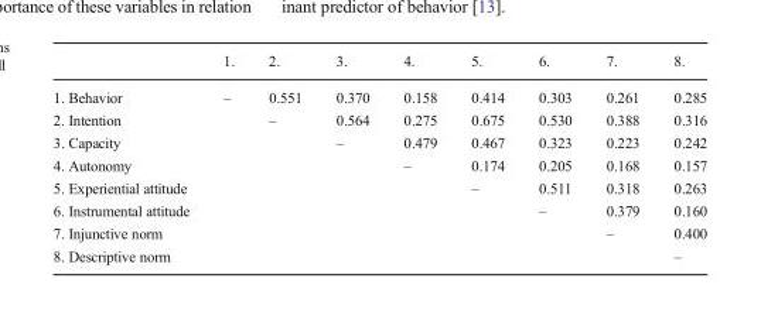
<table><thead><tr><td></td><td>1.</td><td>2.</td><td>3.</td><td>4.</td><td>5.</td><td>6.</td><td>7.</td><td>8.</td></tr></thead><tbody><tr><td>1. Behavior</td><td>–</td><td>0.551</td><td>0.370</td><td>0.158</td><td>0.414</td><td>0.303</td><td>0.261</td><td>0.285</td></tr><tr><td>2. Intention</td><td></td><td>–</td><td>0.564</td><td>0.275</td><td>0.675</td><td>0.530</td><td>0.388</td><td>0.316</td></tr><tr><td>3. Capacity</td><td></td><td></td><td>–</td><td>0.479</td><td>0.467</td><td>0.323</td><td>0.223</td><td>0.242</td></tr><tr><td>4. Autonomy</td><td></td><td></td><td></td><td>–</td><td>0.174</td><td>0.205</td><td>0.168</td><td>0.157</td></tr><tr><td>5. Experiential attitude</td><td></td><td></td><td></td><td></td><td>–</td><td>0.511</td><td>0.318</td><td>0.263</td></tr><tr><td>6. Instrumental attitude</td><td></td><td></td><td></td><td></td><td></td><td>–</td><td>0.379</td><td>0.160</td></tr><tr><td>7. Injunctive norm</td><td></td><td></td><td></td><td></td><td></td><td></td><td>–</td><td>0.400</td></tr><tr><td>8. Descriptive norm</td><td></td><td></td><td></td><td></td><td></td><td></td><td></td><td>–</td></tr></tbody></table>